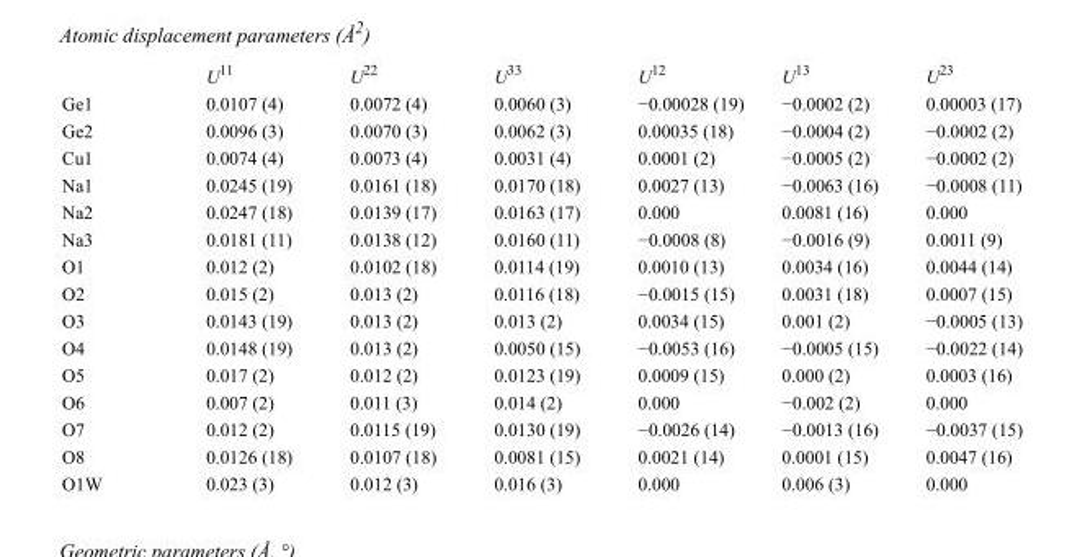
<table><thead><tr><td></td><td>U<sup>11</sup></td><td>U<sup>22</sup></td><td>U<sup>33</sup></td><td>U<sup>12</sup></td><td>U<sup>13</sup></td><td>U<sup>23</sup></td></tr></thead><tbody><tr><td>Ge1</td><td>0.0107 (4)</td><td>0.0072 (4)</td><td>0.0060 (3)</td><td>−0.00028 (19)</td><td>−0.0002 (2)</td><td>0.00003 (17)</td></tr><tr><td>Ge2</td><td>0.0096 (3)</td><td>0.0070 (3)</td><td>0.0062 (3)</td><td>0.00035 (18)</td><td>−0.0004 (2)</td><td>−0.0002 (2)</td></tr><tr><td>Cu1</td><td>0.0074 (4)</td><td>0.0073 (4)</td><td>0.0031 (4)</td><td>0.0001 (2)</td><td>−0.0005 (2)</td><td>−0.0002 (2)</td></tr><tr><td>Na1</td><td>0.0245 (19)</td><td>0.0161 (18)</td><td>0.0170 (18)</td><td>0.0027 (13)</td><td>−0.0063 (16)</td><td>−0.0008 (11)</td></tr><tr><td>Na2</td><td>0.0247 (18)</td><td>0.0139 (17)</td><td>0.0163 (17)</td><td>0.000</td><td>0.0081 (16)</td><td>0.000</td></tr><tr><td>Na3</td><td>0.0181 (11)</td><td>0.0138 (12)</td><td>0.0160 (11)</td><td>−0.0008 (8)</td><td>−0.0016 (9)</td><td>0.0011 (9)</td></tr><tr><td>O1</td><td>0.012 (2)</td><td>0.0102 (18)</td><td>0.0114 (19)</td><td>0.0010 (13)</td><td>0.0034 (16)</td><td>0.0044 (14)</td></tr><tr><td>O2</td><td>0.015 (2)</td><td>0.013 (2)</td><td>0.0116 (18)</td><td>−0.0015 (15)</td><td>0.0031 (18)</td><td>0.0007 (15)</td></tr><tr><td>O3</td><td>0.0143 (19)</td><td>0.013 (2)</td><td>0.013 (2)</td><td>0.0034 (15)</td><td>0.001 (2)</td><td>−0.0005 (13)</td></tr><tr><td>O4</td><td>0.0148 (19)</td><td>0.013 (2)</td><td>0.0050 (15)</td><td>−0.0053 (16)</td><td>−0.0005 (15)</td><td>−0.0022 (14)</td></tr><tr><td>O5</td><td>0.017 (2)</td><td>0.012 (2)</td><td>0.0123 (19)</td><td>0.0009 (15)</td><td>0.000 (2)</td><td>0.0003 (16)</td></tr><tr><td>O6</td><td>0.007 (2)</td><td>0.011 (3)</td><td>0.014 (2)</td><td>0.000</td><td>−0.002 (2)</td><td>0.000</td></tr><tr><td>O7</td><td>0.012 (2)</td><td>0.0115 (19)</td><td>0.0130 (19)</td><td>−0.0026 (14)</td><td>−0.0013 (16)</td><td>−0.0037 (15)</td></tr><tr><td>O8</td><td>0.0126 (18)</td><td>0.0107 (18)</td><td>0.0081 (15)</td><td>0.0021 (14)</td><td>0.0001 (15)</td><td>0.0047 (16)</td></tr><tr><td>O1W</td><td>0.023 (3)</td><td>0.012 (3)</td><td>0.016 (3)</td><td>0.000</td><td>0.006 (3)</td><td>0.000</td></tr></tbody></table>